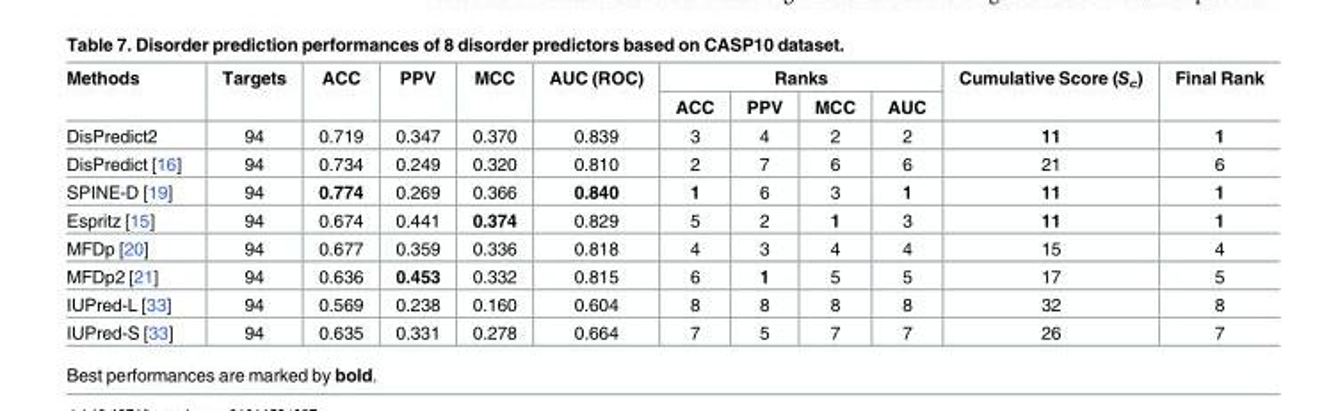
<table><thead><tr><td rowspan="2">Methods</td><td rowspan="2">Targets</td><td rowspan="2">ACC</td><td rowspan="2">PPV</td><td rowspan="2">MCC</td><td rowspan="2">AUC (ROC)</td><td colspan="4">Ranks</td><td rowspan="2">Cumulative Score (S<sub>c</sub>)</td><td rowspan="2">Final Rank</td></tr><tr><td>ACC</td><td>PPV</td><td>MCC</td><td>AUC</td></tr></thead><tbody><tr><td>DisPredict2</td><td>94</td><td>0.719</td><td>0.347</td><td>0.370</td><td>0.839</td><td>3</td><td>4</td><td>2</td><td>2</td><td>11</td><td>1</td></tr><tr><td>DisPredict [16]</td><td>94</td><td>0.734</td><td>0.249</td><td>0.320</td><td>0.810</td><td>2</td><td>7</td><td>6</td><td>6</td><td>21</td><td>6</td></tr><tr><td>SPINE-D [19]</td><td>94</td><td>0.774</td><td>0.269</td><td>0.366</td><td>0.840</td><td>1</td><td>6</td><td>3</td><td>1</td><td>11</td><td>1</td></tr><tr><td>Espritz [15]</td><td>94</td><td>0.674</td><td>0.441</td><td>0.374</td><td>0.829</td><td>5</td><td>2</td><td>1</td><td>3</td><td>11</td><td>1</td></tr><tr><td>MFDp [20]</td><td>94</td><td>0.677</td><td>0.359</td><td>0.336</td><td>0.818</td><td>4</td><td>3</td><td>4</td><td>4</td><td>15</td><td>4</td></tr><tr><td>MFDp2 [21]</td><td>94</td><td>0.636</td><td>0.453</td><td>0.332</td><td>0.815</td><td>6</td><td>1</td><td>5</td><td>5</td><td>17</td><td>5</td></tr><tr><td>IUPred-L [33]</td><td>94</td><td>0.569</td><td>0.238</td><td>0.160</td><td>0.604</td><td>8</td><td>8</td><td>8</td><td>8</td><td>32</td><td>8</td></tr><tr><td>IUPred-S [33]</td><td>94</td><td>0.635</td><td>0.331</td><td>0.278</td><td>0.664</td><td>7</td><td>5</td><td>7</td><td>7</td><td>26</td><td>7</td></tr></tbody></table>